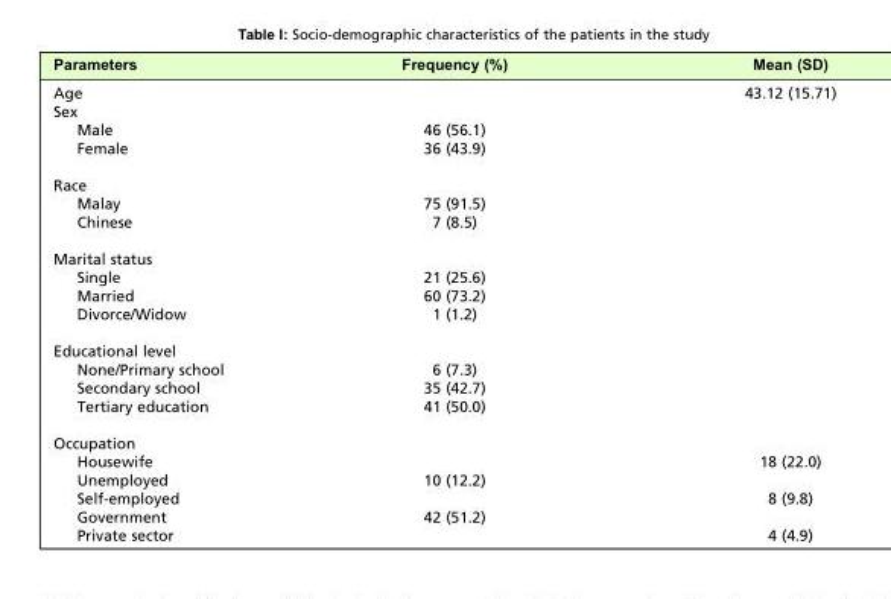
<table><thead><tr><td>Parameters</td><td>Frequency (%)</td><td>Mean (SD)</td></tr></thead><tbody><tr><td>Age</td><td></td><td>43.12 (15.71)</td></tr><tr><td colspan="3">Sex</td></tr><tr><td>Male</td><td>46 (56.1)</td><td></td></tr><tr><td>Female</td><td>36 (43.9)</td><td></td></tr><tr><td colspan="3">Race</td></tr><tr><td>Malay</td><td>75 (91.5)</td><td></td></tr><tr><td>Chinese</td><td>7 (8.5)</td><td></td></tr><tr><td colspan="3">Marital status</td></tr><tr><td>Single</td><td>21 (25.6)</td><td></td></tr><tr><td>Married</td><td>60 (73.2)</td><td></td></tr><tr><td>Divorce/Widow</td><td>1 (1.2)</td><td></td></tr><tr><td colspan="3">Educational level</td></tr><tr><td>None/Primary school</td><td>6 (7.3)</td><td></td></tr><tr><td>Secondary school</td><td>35 (42.7)</td><td></td></tr><tr><td>Tertiary education</td><td>41 (50.0)</td><td></td></tr><tr><td colspan="3">Occupation</td></tr><tr><td>Housewife</td><td></td><td>18 (22.0)</td></tr><tr><td>Unemployed</td><td>10 (12.2)</td><td></td></tr><tr><td>Self-employed</td><td></td><td>8 (9.8)</td></tr><tr><td>Government</td><td>42 (51.2)</td><td></td></tr><tr><td>Private sector</td><td></td><td>4 (4.9)</td></tr></tbody></table>